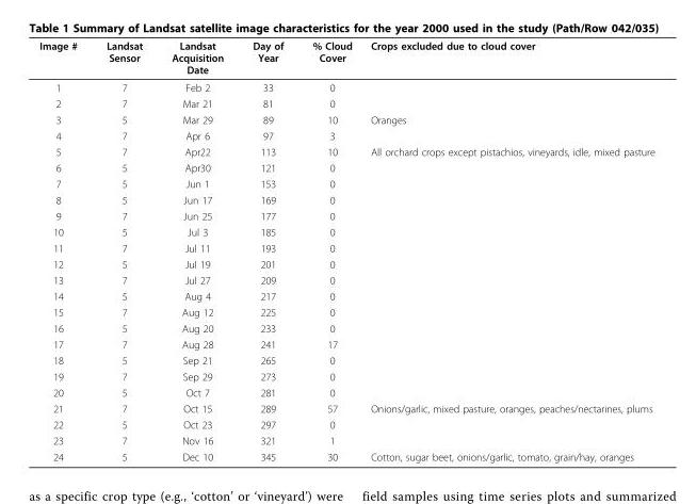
<table><thead><tr><td>Image #</td><td>Landsat Sensor</td><td>Landsat Acquisition Date</td><td>Day of Year</td><td>% Cloud Cover</td><td>Crops excluded due to cloud cover</td></tr></thead><tbody><tr><td>1</td><td>7</td><td>Feb 2</td><td>33</td><td>0</td><td></td></tr><tr><td>2</td><td>7</td><td>Mar 21</td><td>81</td><td>0</td><td></td></tr><tr><td>3</td><td>5</td><td>Mar 29</td><td>89</td><td>10</td><td>Oranges</td></tr><tr><td>4</td><td>7</td><td>Apr 6</td><td>97</td><td>3</td><td></td></tr><tr><td>5</td><td>7</td><td>Apr22</td><td>113</td><td>10</td><td>All orchard crops except pistachios, vineyards, idle, mixed pasture</td></tr><tr><td>6</td><td>5</td><td>Apr30</td><td>121</td><td>0</td><td></td></tr><tr><td>7</td><td>5</td><td>Jun 1</td><td>153</td><td>0</td><td></td></tr><tr><td>8</td><td>5</td><td>Jun 17</td><td>169</td><td>0</td><td></td></tr><tr><td>9</td><td>7</td><td>Jun 25</td><td>177</td><td>0</td><td></td></tr><tr><td>10</td><td>5</td><td>Jul 3</td><td>185</td><td>0</td><td></td></tr><tr><td>11</td><td>7</td><td>Jul 11</td><td>193</td><td>0</td><td></td></tr><tr><td>12</td><td>5</td><td>Jul 19</td><td>201</td><td>0</td><td></td></tr><tr><td>13</td><td>7</td><td>Jul 27</td><td>209</td><td>0</td><td></td></tr><tr><td>14</td><td>5</td><td>Aug 4</td><td>217</td><td>0</td><td></td></tr><tr><td>15</td><td>7</td><td>Aug 12</td><td>225</td><td>0</td><td></td></tr><tr><td>16</td><td>5</td><td>Aug 20</td><td>233</td><td>0</td><td></td></tr><tr><td>17</td><td>7</td><td>Aug 28</td><td>241</td><td>17</td><td></td></tr><tr><td>18</td><td>5</td><td>Sep 21</td><td>265</td><td>0</td><td></td></tr><tr><td>19</td><td>7</td><td>Sep 29</td><td>273</td><td>0</td><td></td></tr><tr><td>20</td><td>5</td><td>Oct 7</td><td>281</td><td>0</td><td></td></tr><tr><td>21</td><td>7</td><td>Oct 15</td><td>289</td><td>57</td><td>Onions/garlic, mixed pasture, oranges, peaches/nectarines, plums</td></tr><tr><td>22</td><td>5</td><td>Oct 23</td><td>297</td><td>0</td><td></td></tr><tr><td>23</td><td>7</td><td>Nov 16</td><td>321</td><td>1</td><td></td></tr><tr><td>24</td><td>5</td><td>Dec 10</td><td>345</td><td>30</td><td>Cotton, sugar beet, onions/garlic, tomato, grain/hay, oranges</td></tr></tbody></table>